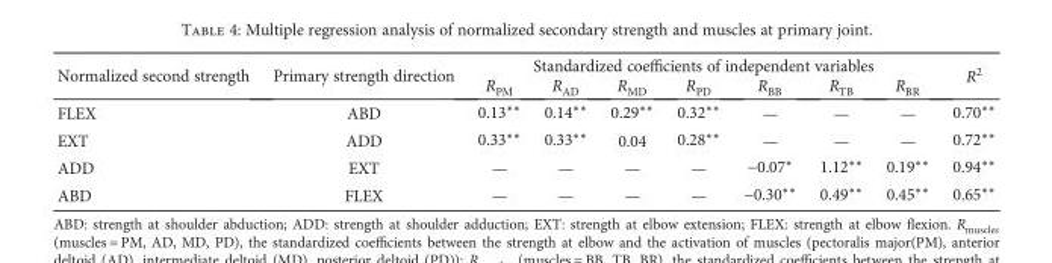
<table><thead><tr><td rowspan="2">Normalized second strength</td><td rowspan="2">Primary strength direction</td><td colspan="7">Standardized coefficients of independent variables</td><td rowspan="2">R<sup>2</sup></td></tr><tr><td>R<sub>PM</sub></td><td>R<sub>AD</sub></td><td>R<sub>MD</sub></td><td>R<sub>PD</sub></td><td>R<sub>BB</sub></td><td>R<sub>TB</sub></td><td>R<sub>BR</sub></td></tr></thead><tbody><tr><td>FLEX</td><td>ABD</td><td>0.13∗∗</td><td>0.14∗∗</td><td>0.29∗∗</td><td>0.32∗∗</td><td>—</td><td>—</td><td>—</td><td>0.70∗∗</td></tr><tr><td>EXT</td><td>ADD</td><td>0.33∗∗</td><td>0.33∗∗</td><td>0.04</td><td>0.28∗∗</td><td>—</td><td>—</td><td>—</td><td>0.72∗∗</td></tr><tr><td>ADD</td><td>EXT</td><td>—</td><td>—</td><td>—</td><td>—</td><td>−0.07∗</td><td>1.12∗∗</td><td>0.19∗∗</td><td>0.94∗∗</td></tr><tr><td>ABD</td><td>FLEX</td><td>—</td><td>—</td><td>—</td><td>—</td><td>−0.30∗∗</td><td>0.49∗∗</td><td>0.45∗∗</td><td>0.65∗∗</td></tr></tbody></table>